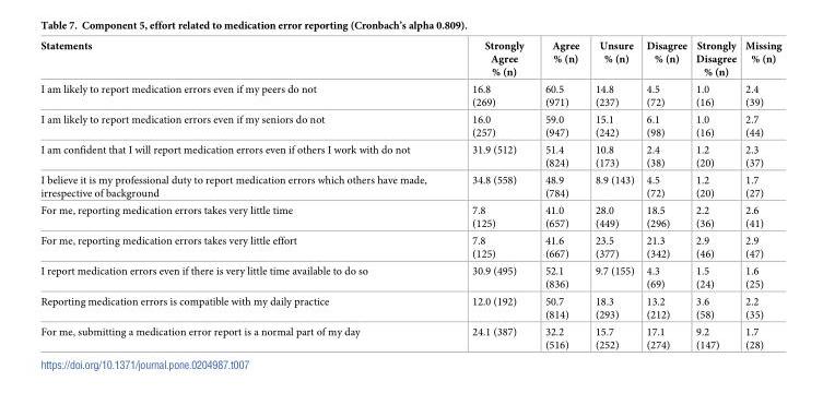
<table><thead><tr><td>Statements</td><td>Strongly Agree % (n)</td><td>Agree % (n)</td><td>Unsure % (n)</td><td>Disagree % (n)</td><td>Strongly Disagree % (n)</td><td>Missing % (n)</td></tr></thead><tbody><tr><td>I am likely to report medication errors even if my peers do not</td><td>16.8 (269)</td><td>60.5 (971)</td><td>14.8 (237)</td><td>4.5 (72)</td><td>1.0 (16)</td><td>2.4 (39)</td></tr><tr><td>I am likely to report medication errors even if my seniors do not</td><td>16.0 (257)</td><td>59.0 (947)</td><td>15.1 (242)</td><td>6.1 (98)</td><td>1.0 (16)</td><td>2.7 (44)</td></tr><tr><td>I am confident that I will report medication errors even if others I work with do not</td><td>31.9 (512)</td><td>51.4 (824)</td><td>10.8 (173)</td><td>2.4 (38)</td><td>1.2 (20)</td><td>2.3 (37)</td></tr><tr><td>I believe it is my professional duty to report medication errors which others have made, irrespective of background</td><td>34.8 (558)</td><td>48.9 (784)</td><td>8.9 (143)</td><td>4.5 (72)</td><td>1.2 (20)</td><td>1.7 (27)</td></tr><tr><td>For me, reporting medication errors takes very little time</td><td>7.8 (125)</td><td>41.0 (657)</td><td>28.0 (449)</td><td>18.5 (296)</td><td>2.2 (36)</td><td>2.6 (41)</td></tr><tr><td>For me, reporting medication errors takes very little effort</td><td>7.8 (125)</td><td>41.6 (667)</td><td>23.5 (377)</td><td>21.3 (342)</td><td>2.9 (46)</td><td>2.9 (47)</td></tr><tr><td>I report medication errors even if there is very little time available to do so</td><td>30.9 (495)</td><td>52.1 (836)</td><td>9.7 (155)</td><td>4.3 (69)</td><td>1.5 (24)</td><td>1.6 (25)</td></tr><tr><td>Reporting medication errors is compatible with my daily practice</td><td>12.0 (192)</td><td>50.7 (814)</td><td>18.3 (293)</td><td>13.2 (212)</td><td>3.6 (58)</td><td>2.2 (35)</td></tr><tr><td>For me, submitting a medication error report is a normal part of my day</td><td>24.1 (387)</td><td>32.2 (516)</td><td>15.7 (252)</td><td>17.1 (274)</td><td>9.2 (147)</td><td>1.7 (28)</td></tr></tbody></table>